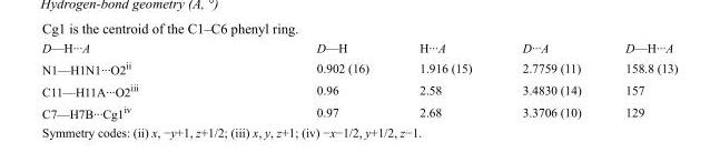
<table><tbody><tr><td>D—H···A</td><td>D—H</td><td>H···A</td><td>D···A</td><td>D—H···A</td></tr><tr><td>N1—H1N1···O2<sup>ii</sup></td><td>0.902 (16)</td><td>1.916 (15)</td><td>2.7759 (11)</td><td>158.8 (13)</td></tr><tr><td>C11—H11A···O2<sup>iii</sup></td><td>0.96</td><td>2.58</td><td>3.4830 (14)</td><td>157</td></tr><tr><td>C7—H7B···Cg1<sup>iv</sup></td><td>0.97</td><td>2.68</td><td>3.3706 (10)</td><td>129</td></tr></tbody></table>